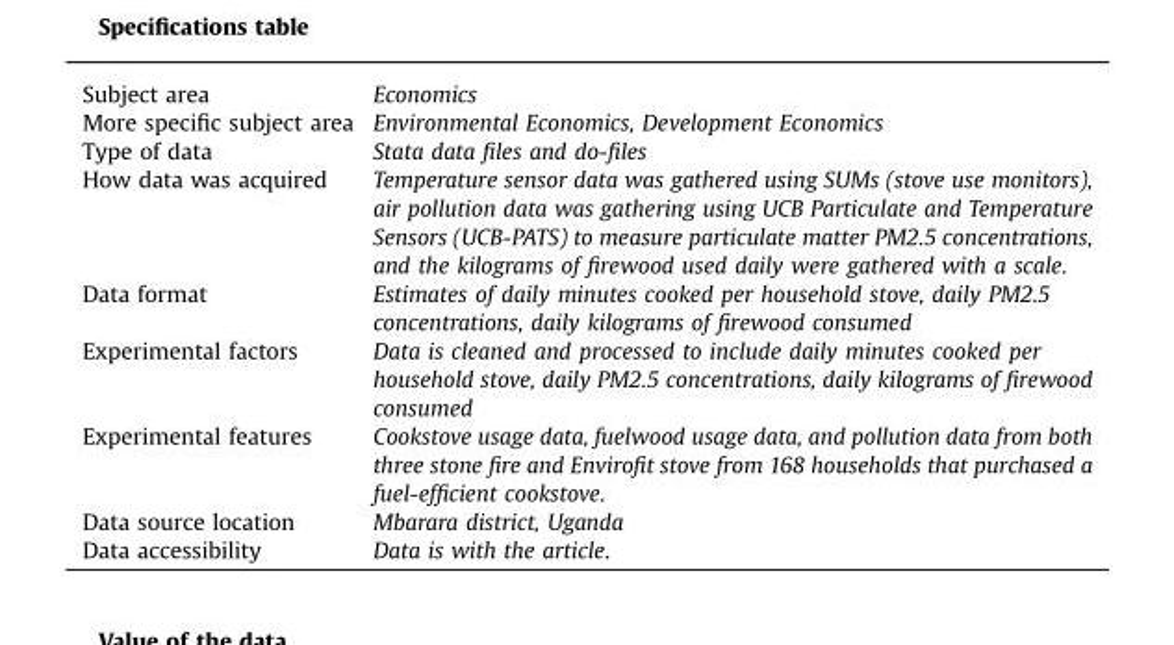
<table><tbody><tr><td>Subject area</td><td>Economics</td></tr><tr><td>More specific subject area</td><td>Environmental Economics, Development Economics</td></tr><tr><td>Type of data</td><td>Stata data files and do-files</td></tr><tr><td>How data was acquired</td><td>Temperature sensor data was gathered using SUMs (stove use monitors), air pollution data was gathering using UCB Particulate and Temperature Sensors (UCB-PATS) to measure particulate matter PM2.5 concentrations, and the kilograms of firewood used daily were gathered with a scale.</td></tr><tr><td>Data format</td><td>Estimates of daily minutes cooked per household stove, daily PM2.5 concentrations, daily kilograms of firewood consumed</td></tr><tr><td>Experimental factors</td><td>Data is cleaned and processed to include daily minutes cooked per household stove, daily PM2.5 concentrations, daily kilograms of firewood consumed</td></tr><tr><td>Experimental features</td><td>Cookstove usage data, fuelwood usage data, and pollution data from both three stone fire and Envirofit stove from 168 households that purchased a fuel-efficient cookstove.</td></tr><tr><td>Data source location</td><td>Mbarara district, Uganda</td></tr><tr><td>Data accessibility</td><td>Data is with the article.</td></tr></tbody></table>